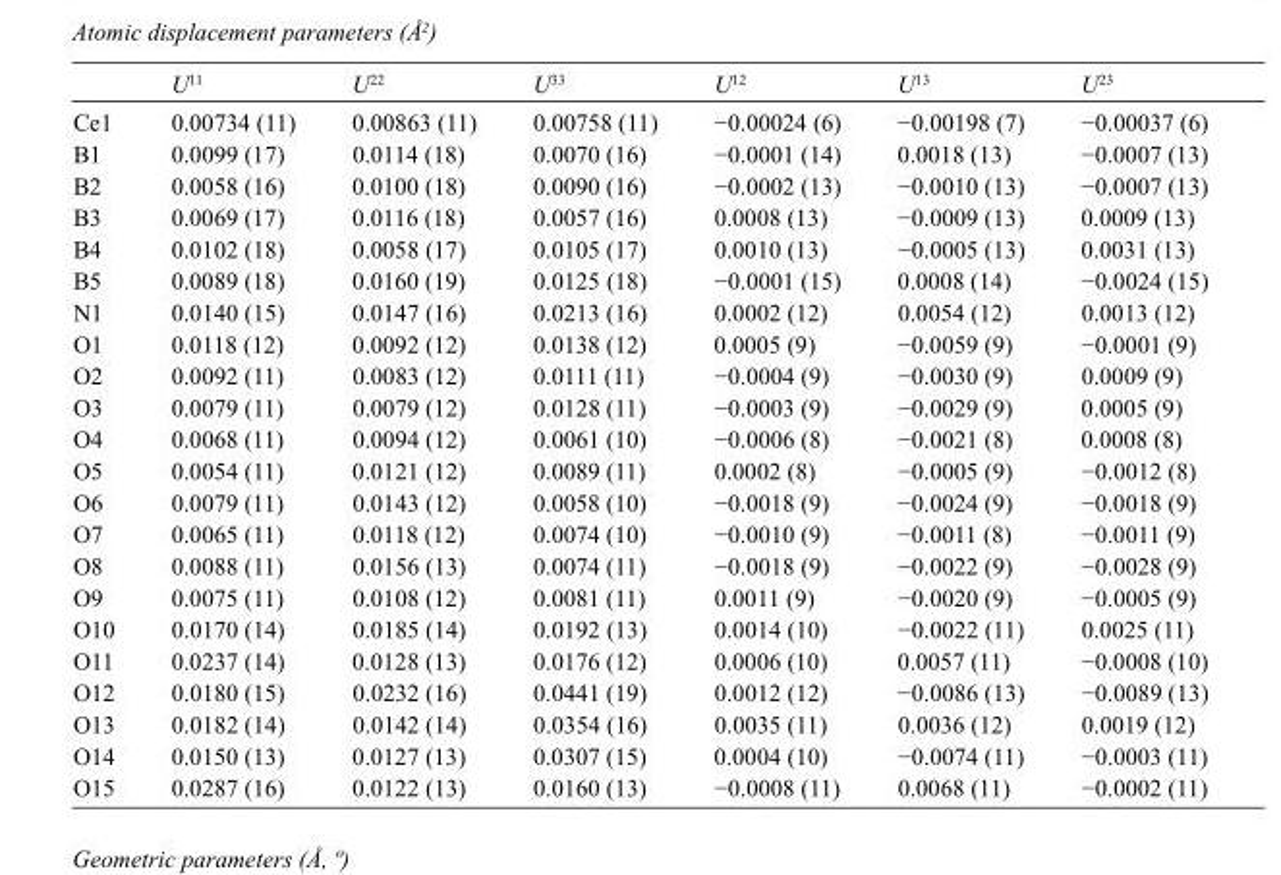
<table><thead><tr><td></td><td>U<sup>11</sup></td><td>U<sup>22</sup></td><td>U<sup>33</sup></td><td>U<sup>12</sup></td><td>U<sup>13</sup></td><td>U<sup>23</sup></td></tr></thead><tbody><tr><td>Ce1</td><td>0.00734 (11)</td><td>0.00863 (11)</td><td>0.00758 (11)</td><td>−0.00024 (6)</td><td>−0.00198 (7)</td><td>−0.00037 (6)</td></tr><tr><td>B1</td><td>0.0099 (17)</td><td>0.0114 (18)</td><td>0.0070 (16)</td><td>−0.0001 (14)</td><td>0.0018 (13)</td><td>−0.0007 (13)</td></tr><tr><td>B2</td><td>0.0058 (16)</td><td>0.0100 (18)</td><td>0.0090 (16)</td><td>−0.0002 (13)</td><td>−0.0010 (13)</td><td>−0.0007 (13)</td></tr><tr><td>B3</td><td>0.0069 (17)</td><td>0.0116 (18)</td><td>0.0057 (16)</td><td>0.0008 (13)</td><td>−0.0009 (13)</td><td>0.0009 (13)</td></tr><tr><td>B4</td><td>0.0102 (18)</td><td>0.0058 (17)</td><td>0.0105 (17)</td><td>0.0010 (13)</td><td>−0.0005 (13)</td><td>0.0031 (13)</td></tr><tr><td>B5</td><td>0.0089 (18)</td><td>0.0160 (19)</td><td>0.0125 (18)</td><td>−0.0001 (15)</td><td>0.0008 (14)</td><td>−0.0024 (15)</td></tr><tr><td>N1</td><td>0.0140 (15)</td><td>0.0147 (16)</td><td>0.0213 (16)</td><td>0.0002 (12)</td><td>0.0054 (12)</td><td>0.0013 (12)</td></tr><tr><td>O1</td><td>0.0118 (12)</td><td>0.0092 (12)</td><td>0.0138 (12)</td><td>0.0005 (9)</td><td>−0.0059 (9)</td><td>−0.0001 (9)</td></tr><tr><td>O2</td><td>0.0092 (11)</td><td>0.0083 (12)</td><td>0.0111 (11)</td><td>−0.0004 (9)</td><td>−0.0030 (9)</td><td>0.0009 (9)</td></tr><tr><td>O3</td><td>0.0079 (11)</td><td>0.0079 (12)</td><td>0.0128 (11)</td><td>−0.0003 (9)</td><td>−0.0029 (9)</td><td>0.0005 (9)</td></tr><tr><td>O4</td><td>0.0068 (11)</td><td>0.0094 (12)</td><td>0.0061 (10)</td><td>−0.0006 (8)</td><td>−0.0021 (8)</td><td>0.0008 (8)</td></tr><tr><td>O5</td><td>0.0054 (11)</td><td>0.0121 (12)</td><td>0.0089 (11)</td><td>0.0002 (8)</td><td>−0.0005 (9)</td><td>−0.0012 (8)</td></tr><tr><td>O6</td><td>0.0079 (11)</td><td>0.0143 (12)</td><td>0.0058 (10)</td><td>−0.0018 (9)</td><td>−0.0024 (9)</td><td>−0.0018 (9)</td></tr><tr><td>O7</td><td>0.0065 (11)</td><td>0.0118 (12)</td><td>0.0074 (10)</td><td>−0.0010 (9)</td><td>−0.0011 (8)</td><td>−0.0011 (9)</td></tr><tr><td>O8</td><td>0.0088 (11)</td><td>0.0156 (13)</td><td>0.0074 (11)</td><td>−0.0018 (9)</td><td>−0.0022 (9)</td><td>−0.0028 (9)</td></tr><tr><td>O9</td><td>0.0075 (11)</td><td>0.0108 (12)</td><td>0.0081 (11)</td><td>0.0011 (9)</td><td>−0.0020 (9)</td><td>−0.0005 (9)</td></tr><tr><td>O10</td><td>0.0170 (14)</td><td>0.0185 (14)</td><td>0.0192 (13)</td><td>0.0014 (10)</td><td>−0.0022 (11)</td><td>0.0025 (11)</td></tr><tr><td>O11</td><td>0.0237 (14)</td><td>0.0128 (13)</td><td>0.0176 (12)</td><td>0.0006 (10)</td><td>0.0057 (11)</td><td>−0.0008 (10)</td></tr><tr><td>O12</td><td>0.0180 (15)</td><td>0.0232 (16)</td><td>0.0441 (19)</td><td>0.0012 (12)</td><td>−0.0086 (13)</td><td>−0.0089 (13)</td></tr><tr><td>O13</td><td>0.0182 (14)</td><td>0.0142 (14)</td><td>0.0354 (16)</td><td>0.0035 (11)</td><td>0.0036 (12)</td><td>0.0019 (12)</td></tr><tr><td>O14</td><td>0.0150 (13)</td><td>0.0127 (13)</td><td>0.0307 (15)</td><td>0.0004 (10)</td><td>−0.0074 (11)</td><td>−0.0003 (11)</td></tr><tr><td>O15</td><td>0.0287 (16)</td><td>0.0122 (13)</td><td>0.0160 (13)</td><td>−0.0008 (11)</td><td>0.0068 (11)</td><td>−0.0002 (11)</td></tr></tbody></table>